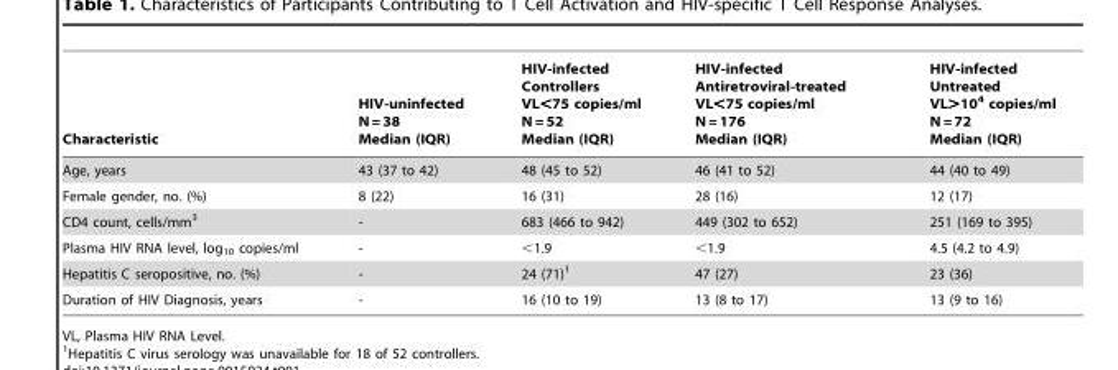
<table><thead><tr><td>Characteristic</td><td>HIV-uninfected N = 38 Median (IQR)</td><td>HIV-infected Controllers VL&lt;75 copies/ml N = 52 Median (IQR)</td><td>HIV-infected Antiretroviral-treated VL&lt;75 copies/ml N = 176 Median (IQR)</td><td>HIV-infected Untreated VL&gt;10<sup>4</sup> copies/ml N = 72 Median (IQR)</td></tr></thead><tbody><tr><td>Age, years</td><td>43 (37 to 42)</td><td>48 (45 to 52)</td><td>46 (41 to 52)</td><td>44 (40 to 49)</td></tr><tr><td>Female gender, no. (%)</td><td>8 (22)</td><td>16 (31)</td><td>28 (16)</td><td>12 (17)</td></tr><tr><td>CD4 count, cells/mm<sup>3</sup></td><td>-</td><td>683 (466 to 942)</td><td>449 (302 to 652)</td><td>251 (169 to 395)</td></tr><tr><td>Plasma HIV RNA level, log<sub>10</sub> copies/ml</td><td>-</td><td>&lt;1.9</td><td>&lt;1.9</td><td>4.5 (4.2 to 4.9)</td></tr><tr><td>Hepatitis C seropositive, no. (%)</td><td>-</td><td>24 (71)<sup>1</sup></td><td>47 (27)</td><td>23 (36)</td></tr><tr><td>Duration of HIV Diagnosis, years</td><td>-</td><td>16 (10 to 19)</td><td>13 (8 to 17)</td><td>13 (9 to 16)</td></tr></tbody></table>